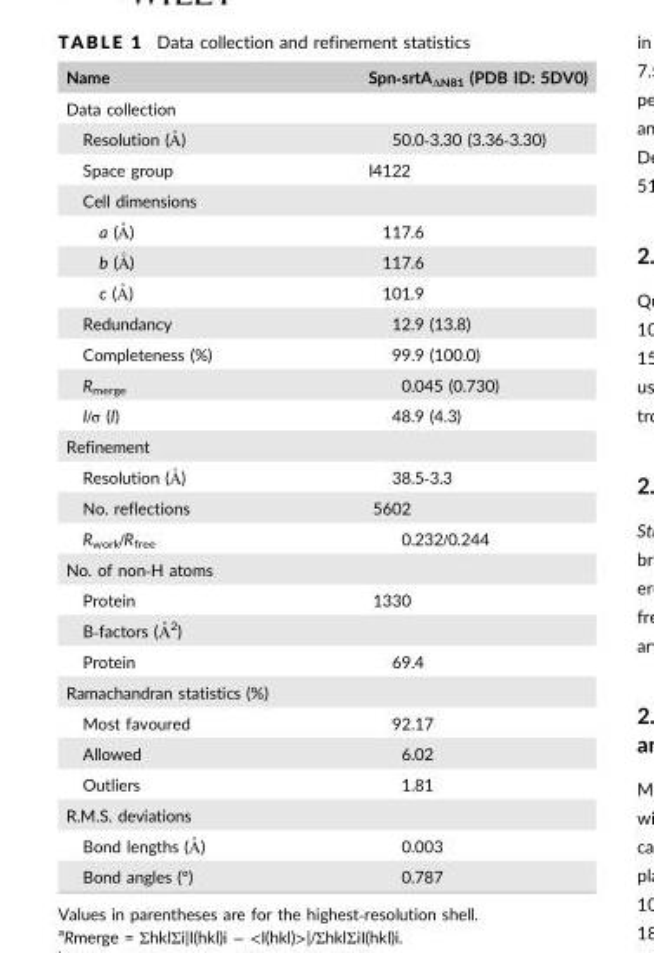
<table><thead><tr><td>Name</td><td>Spn‐srtAΔN81 (PDB ID: 5DV0)</td></tr></thead><tbody><tr><td colspan="2">Data collection</td></tr><tr><td>Resolution (Å)</td><td>50.0‐3.30 (3.36‐3.30)</td></tr><tr><td>Space group</td><td>I4122</td></tr><tr><td colspan="2">Cell dimensions</td></tr><tr><td>a (Å)</td><td>117.6</td></tr><tr><td>b (Å)</td><td>117.6</td></tr><tr><td>c (Å)</td><td>101.9</td></tr><tr><td>Redundancy</td><td>12.9 (13.8)</td></tr><tr><td>Completeness (%)</td><td>99.9 (100.0)</td></tr><tr><td>R<sub>merge</sub></td><td>0.045 (0.730)</td></tr><tr><td>I/σ (I)</td><td>48.9 (4.3)</td></tr><tr><td colspan="2">Refinement</td></tr><tr><td>Resolution (Å)</td><td>38.5‐3.3</td></tr><tr><td>No. reflections</td><td>5602</td></tr><tr><td>R<sub>work</sub>/R<sub>free</sub></td><td>0.232/0.244</td></tr><tr><td colspan="2">No. of non‐H atoms</td></tr><tr><td>Protein</td><td>1330</td></tr><tr><td colspan="2">B‐factors (Å<sup>2</sup>)</td></tr><tr><td>Protein</td><td>69.4</td></tr><tr><td colspan="2">Ramachandran statistics (%)</td></tr><tr><td>Most favoured</td><td>92.17</td></tr><tr><td>Allowed</td><td>6.02</td></tr><tr><td>Outliers</td><td>1.81</td></tr><tr><td colspan="2">R.M.S. deviations</td></tr><tr><td>Bond lengths (Å)</td><td>0.003</td></tr><tr><td>Bond angles (°)</td><td>0.787</td></tr></tbody></table>